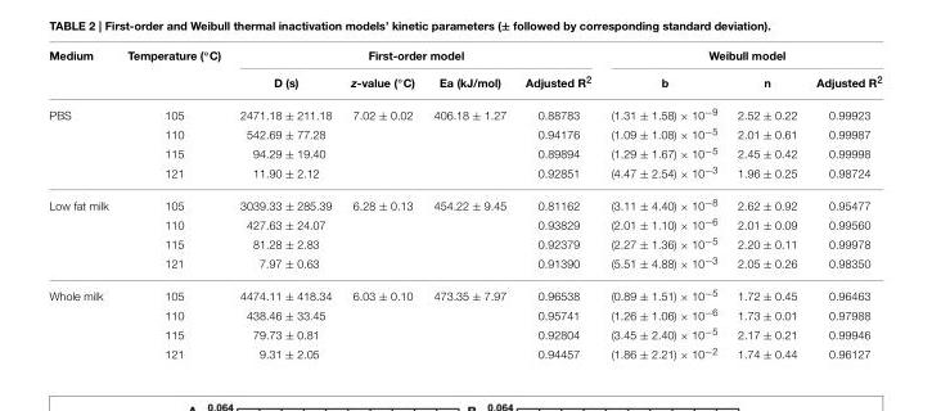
<table><thead><tr><td rowspan="2">Medium</td><td rowspan="2">Temperature (◦C)</td><td colspan="4">First-order model</td><td colspan="3">Weibull model</td></tr><tr><td>D (s)</td><td>z-value (◦C)</td><td>Ea (kJ/mol)</td><td>Adjusted R<sup>2</sup></td><td>b</td><td>n</td><td>Adjusted R<sup>2</sup></td></tr></thead><tbody><tr><td rowspan="4">PBS</td><td>105</td><td>2471.18 ± 211.18</td><td>7.02 ± 0.02</td><td>406.18 ± 1.27</td><td>0.88783</td><td>(1.31 ± 1.58) × 10<sup>−9</sup></td><td>2.52 ± 0.22</td><td>0.99923</td></tr><tr><td>110</td><td>542.69 ± 77.28</td><td></td><td></td><td>0.94176</td><td>(1.09 ± 1.08) × 10<sup>−5</sup></td><td>2.01 ± 0.61</td><td>0.99987</td></tr><tr><td>115</td><td>94.29 ± 19.40</td><td></td><td></td><td>0.89894</td><td>(1.29 ± 1.67) × 10<sup>−5</sup></td><td>2.45 ± 0.42</td><td>0.99998</td></tr><tr><td>121</td><td>11.90 ± 2.12</td><td></td><td></td><td>0.92851</td><td>(4.47 ± 2.54) × 10<sup>−3</sup></td><td>1.96 ± 0.25</td><td>0.98724</td></tr><tr><td rowspan="4">Low fat milk</td><td>105</td><td>3039.33 ± 285.39</td><td>6.28 ± 0.13</td><td>454.22 ± 9.45</td><td>0.81162</td><td>(3.11 ± 4.40) × 10<sup>−8</sup></td><td>2.62 ± 0.92</td><td>0.95477</td></tr><tr><td>110</td><td>427.63 ± 24.07</td><td></td><td></td><td>0.93829</td><td>(2.01 ± 1.10) × 10<sup>−6</sup></td><td>2.01 ± 0.09</td><td>0.99560</td></tr><tr><td>115</td><td>81.28 ± 2.83</td><td></td><td></td><td>0.92379</td><td>(2.27 ± 1.36) × 10<sup>−5</sup></td><td>2.20 ± 0.11</td><td>0.99978</td></tr><tr><td>121</td><td>7.97 ± 0.63</td><td></td><td></td><td>0.91390</td><td>(5.51 ± 4.88) × 10<sup>−3</sup></td><td>2.05 ± 0.26</td><td>0.98350</td></tr><tr><td rowspan="4">Whole milk</td><td>105</td><td>4474.11 ± 418.34</td><td>6.03 ± 0.10</td><td>473.35 ± 7.97</td><td>0.96538</td><td>(0.89 ± 1.51) × 10<sup>−5</sup></td><td>1.72 ± 0.45</td><td>0.96463</td></tr><tr><td>110</td><td>438.46 ± 33.45</td><td></td><td></td><td>0.95741</td><td>(1.26 ± 1.06) × 10<sup>−6</sup></td><td>1.73 ± 0.01</td><td>0.97988</td></tr><tr><td>115</td><td>79.73 ± 0.81</td><td></td><td></td><td>0.92804</td><td>(3.45 ± 2.40) × 10<sup>−5</sup></td><td>2.17 ± 0.21</td><td>0.99946</td></tr><tr><td>121</td><td>9.31 ± 2.05</td><td></td><td></td><td>0.94457</td><td>(1.86 ± 2.21) × 10<sup>−2</sup></td><td>1.74 ± 0.44</td><td>0.96127</td></tr></tbody></table>